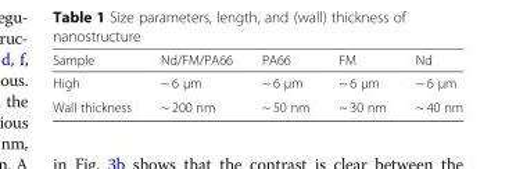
<table><thead><tr><td>Sample</td><td>Nd/FM/PA66</td><td>PA66</td><td>FM</td><td>Nd</td></tr></thead><tbody><tr><td>High</td><td>~ 6 μm</td><td>~ 6 μm</td><td>~ 6 μm</td><td>~ 6 μm</td></tr><tr><td>Wall thickness</td><td>~ 200 nm</td><td>~ 50 nm</td><td>~ 30 nm</td><td>~ 40 nm</td></tr></tbody></table>